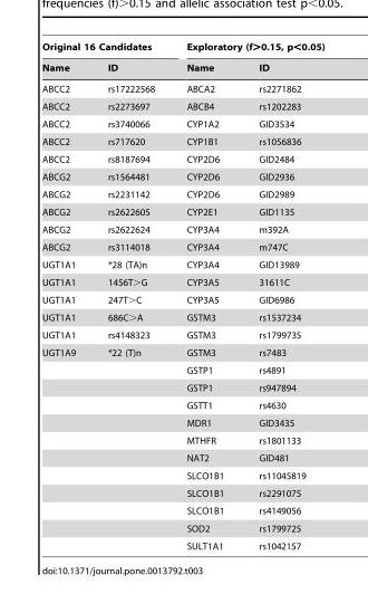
<table><thead><tr><td colspan="2">Original 16 Candidates</td><td colspan="2">Exploratory (f&gt;0.15, p&lt;0.05)</td></tr><tr><td>Name</td><td>ID</td><td>Name</td><td>ID</td></tr></thead><tbody><tr><td>ABCC2</td><td>rs17222568</td><td>ABCA2</td><td>rs2271862</td></tr><tr><td>ABCC2</td><td>rs2273697</td><td>ABCB4</td><td>rs1202283</td></tr><tr><td>ABCC2</td><td>rs3740066</td><td>CYP1A2</td><td>GID3534</td></tr><tr><td>ABCC2</td><td>rs717620</td><td>CYP1B1</td><td>rs1056836</td></tr><tr><td>ABCC2</td><td>rs8187694</td><td>CYP2D6</td><td>GID2484</td></tr><tr><td>ABCG2</td><td>rs1564481</td><td>CYP2D6</td><td>GID2936</td></tr><tr><td>ABCG2</td><td>rs2231142</td><td>CYP2D6</td><td>GID2989</td></tr><tr><td>ABCG2</td><td>rs2622605</td><td>CYP2E1</td><td>GID1135</td></tr><tr><td>ABCG2</td><td>rs2622624</td><td>CYP3A4</td><td>m392A</td></tr><tr><td>ABCG2</td><td>rs3114018</td><td>CYP3A4</td><td>m747C</td></tr><tr><td>UGT1A1</td><td>*28 (TA)n</td><td>CYP3A4</td><td>GID13989</td></tr><tr><td>UGT1A1</td><td>1456T&gt;G</td><td>CYP3A5</td><td>31611C</td></tr><tr><td>UGT1A1</td><td>247T&gt;C</td><td>CYP3A5</td><td>GID6986</td></tr><tr><td>UGT1A1</td><td>686C&gt;A</td><td>GSTM3</td><td>rs1537234</td></tr><tr><td>UGT1A1</td><td>rs4148323</td><td>GSTM3</td><td>rs1799735</td></tr><tr><td rowspan="12">UGT1A9</td><td>*22 (T)n</td><td>GSTM3</td><td>rs7483</td></tr><tr><td></td><td>GSTP1</td><td>rs4891</td></tr><tr><td></td><td>GSTP1</td><td>rs947894</td></tr><tr><td></td><td>GSTT1</td><td>rs4630</td></tr><tr><td></td><td>MDR1</td><td>GID3435</td></tr><tr><td></td><td>MTHFR</td><td>rs1801133</td></tr><tr><td></td><td>NAT2</td><td>GID481</td></tr><tr><td></td><td>SLCO1B1</td><td>rs11045819</td></tr><tr><td></td><td>SLCO1B1</td><td>rs2291075</td></tr><tr><td></td><td>SLCO1B1</td><td>rs4149056</td></tr><tr><td></td><td>SOD2</td><td>rs1799725</td></tr><tr><td></td><td>SULT1A1</td><td>rs1042157</td></tr></tbody></table>